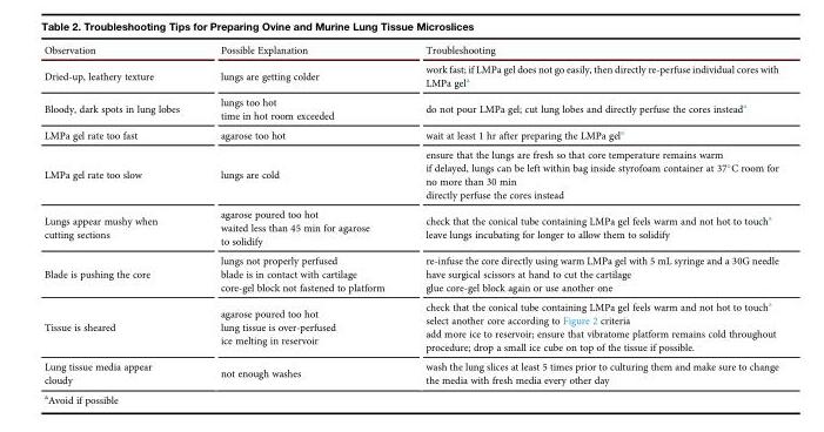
<table><thead><tr><td>Observation</td><td>Possible Explanation</td><td>Troubleshooting</td></tr></thead><tbody><tr><td>Dried-up, leathery texture</td><td>lungs are getting colder</td><td>work fast; if LMPa gel does not go easily, then directly re-perfuse individual cores with LMPa gel<sup>a</sup></td></tr><tr><td>Bloody, dark spots in lung lobes</td><td>lungs too hot time in hot room exceeded</td><td>do not pour LMPa gel; cut lung lobes and directly perfuse the cores instead<sup>a</sup></td></tr><tr><td>LMPa gel rate too fast</td><td>agarose too hot</td><td>wait at least 1 hr after preparing the LMPa gel<sup>a</sup></td></tr><tr><td>LMPa gel rate too slow</td><td>lungs are cold</td><td>ensure that the lungs are fresh so that core temperature remains warm if delayed, lungs can be left within bag inside styrofoam container at 37°C room for no more than 30 min directly perfuse the cores instead</td></tr><tr><td>Lungs appear mushy when cutting sections</td><td>agarose poured too hot waited less than 45 min for agarose to solidify</td><td>check that the conical tube containing LMPa gel feels warm and not hot to touch<sup>a</sup> leave lungs incubating for longer to allow them to solidify</td></tr><tr><td>Blade is pushing the core</td><td>lungs not properly perfused blade is in contact with cartilage core-gel block not fastened to platform</td><td>re-infuse the core directly using warm LMPa gel with 5 mL syringe and a 30G needle have surgical scissors at hand to cut the cartilage glue core-gel block again or use another one</td></tr><tr><td>Tissue is sheared</td><td>agarose poured too hot lung tissue is over-perfused ice melting in reservoir</td><td>check that the conical tube containing LMPa gel feels warm and not hot to touch<sup>a</sup> select another core according to Figure 2 criteria add more ice to reservoir; ensure that vibratome platform remains cold throughout procedure; drop a small ice cube on top of the tissue if possible.</td></tr><tr><td>Lung tissue media appear cloudy</td><td>not enough washes</td><td>wash the lung slices at least 5 times prior to culturing them and make sure to change the media with fresh media every other day</td></tr></tbody></table>